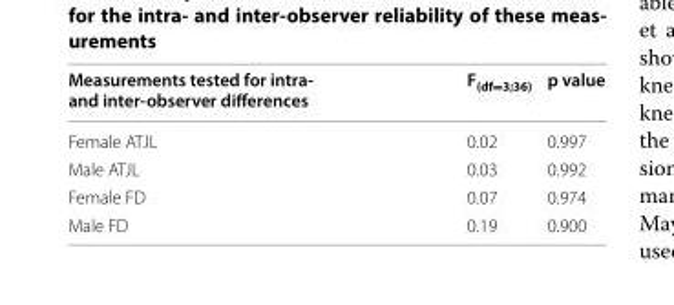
<table><thead><tr><td>Measurements tested for intra- and inter-observer differences</td><td>F<sub>(df=3;36)</sub></td><td>p value</td></tr></thead><tbody><tr><td>Female ATJL</td><td>0.02</td><td>0.997</td></tr><tr><td>Male ATJL</td><td>0.03</td><td>0.992</td></tr><tr><td>Female FD</td><td>0.07</td><td>0.974</td></tr><tr><td>Male FD</td><td>0.19</td><td>0.900</td></tr></tbody></table>